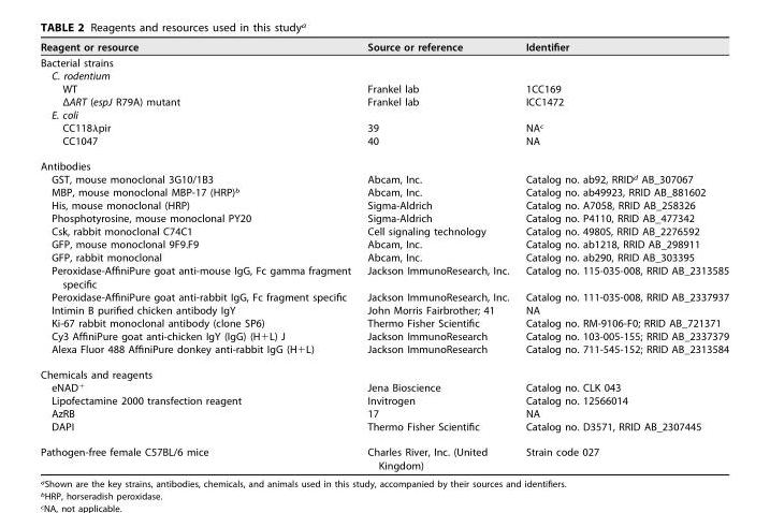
<table><thead><tr><td>Reagent or resource</td><td>Source or reference</td><td>Identifier</td></tr></thead><tbody><tr><td colspan="3">Bacterial strains</td></tr><tr><td colspan="3">C. rodentium</td></tr><tr><td>WT</td><td>Frankel lab</td><td>1CC169</td></tr><tr><td>ΔART (espJ R79A) mutant</td><td>Frankel lab</td><td>ICC1472</td></tr><tr><td colspan="3">E. coli</td></tr><tr><td>CC118λpir</td><td>39</td><td>NA<sup>c</sup></td></tr><tr><td>CC1047</td><td>40</td><td>NA</td></tr><tr><td colspan="3">Antibodies</td></tr><tr><td>GST, mouse monoclonal 3G10/1B3</td><td>Abcam, Inc.</td><td>Catalog no. ab92, RRID<sup>d</sup> AB_307067</td></tr><tr><td>MBP, mouse monoclonal MBP-17 (HRP)<sup>b</sup></td><td>Abcam, Inc.</td><td>Catalog no. ab49923, RRID AB_881602</td></tr><tr><td>His, mouse monoclonal (HRP)</td><td>Sigma-Aldrich</td><td>Catalog no. A7058, RRID AB_258326</td></tr><tr><td>Phosphotyrosine, mouse monoclonal PY20</td><td>Sigma-Aldrich</td><td>Catalog no. P4110, RRID AB_477342</td></tr><tr><td>Csk, rabbit monoclonal C74C1</td><td>Cell signaling technology</td><td>Catalog no. 4980S, RRID AB_2276592</td></tr><tr><td>GFP, mouse monoclonal 9F9.F9</td><td>Abcam, Inc.</td><td>Catalog no. ab1218, RRID AB_298911</td></tr><tr><td>GFP, rabbit monoclonal</td><td>Abcam, Inc.</td><td>Catalog no. ab290, RRID AB_303395</td></tr><tr><td>Peroxidase-AffiniPure goat anti-mouse IgG, Fc gamma fragment specific</td><td>Jackson ImmunoResearch, Inc.</td><td>Catalog no. 115-035-008, RRID AB_2313585</td></tr><tr><td>Peroxidase-AffiniPure goat anti-rabbit IgG, Fc fragment specific</td><td>Jackson ImmunoResearch, Inc.</td><td>Catalog no. 111-035-008, RRID AB_2337937</td></tr><tr><td>Intimin B purified chicken antibody IgY</td><td>John Morris Fairbrother; 41</td><td>NA</td></tr><tr><td>Ki-67 rabbit monoclonal antibody (clone SP6)</td><td>Thermo Fisher Scientific</td><td>Catalog no. RM-9106-F0; RRID AB_721371</td></tr><tr><td>Cy3 AffiniPure goat anti-chicken IgY (IgG) (H+L) J</td><td>Jackson ImmunoResearch</td><td>Catalog no. 103-005-155; RRID AB_2337379</td></tr><tr><td>Alexa Fluor 488 AffiniPure donkey anti-rabbit IgG (H+L)</td><td>Jackson ImmunoResearch</td><td>Catalog no. 711-545-152; RRID AB_2313584</td></tr><tr><td colspan="3">Chemicals and reagents</td></tr><tr><td>eNAD<sup>+</sup></td><td>Jena Bioscience</td><td>Catalog no. CLK 043</td></tr><tr><td>Lipofectamine 2000 transfection reagent</td><td>Invitrogen</td><td>Catalog no. 12566014</td></tr><tr><td>AzRB</td><td>17</td><td>NA</td></tr><tr><td>DAPI</td><td>Thermo Fisher Scientific</td><td>Catalog no. D3571, RRID AB_2307445</td></tr><tr><td>Pathogen-free female C57BL/6 mice</td><td>Charles River, Inc. (United Kingdom)</td><td>Strain code 027</td></tr></tbody></table>